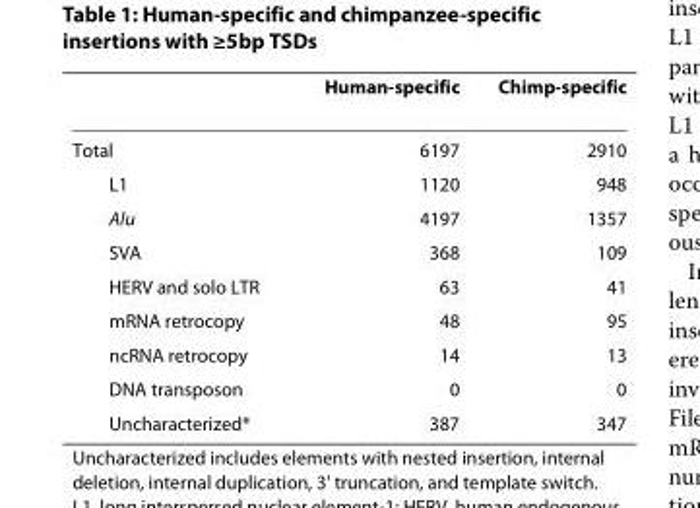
<table><thead><tr><td></td><td>Human-specific</td><td>Chimp-specific</td></tr></thead><tbody><tr><td>Total</td><td>6197</td><td>2910</td></tr><tr><td>L1</td><td>1120</td><td>948</td></tr><tr><td>Alu</td><td>4197</td><td>1357</td></tr><tr><td>SVA</td><td>368</td><td>109</td></tr><tr><td>HERV and solo LTR</td><td>63</td><td>41</td></tr><tr><td>mRNA retrocopy</td><td>48</td><td>95</td></tr><tr><td>ncRNA retrocopy</td><td>14</td><td>13</td></tr><tr><td>DNA transposon</td><td>0</td><td>0</td></tr><tr><td>Uncharacterized*</td><td>387</td><td>347</td></tr></tbody></table>